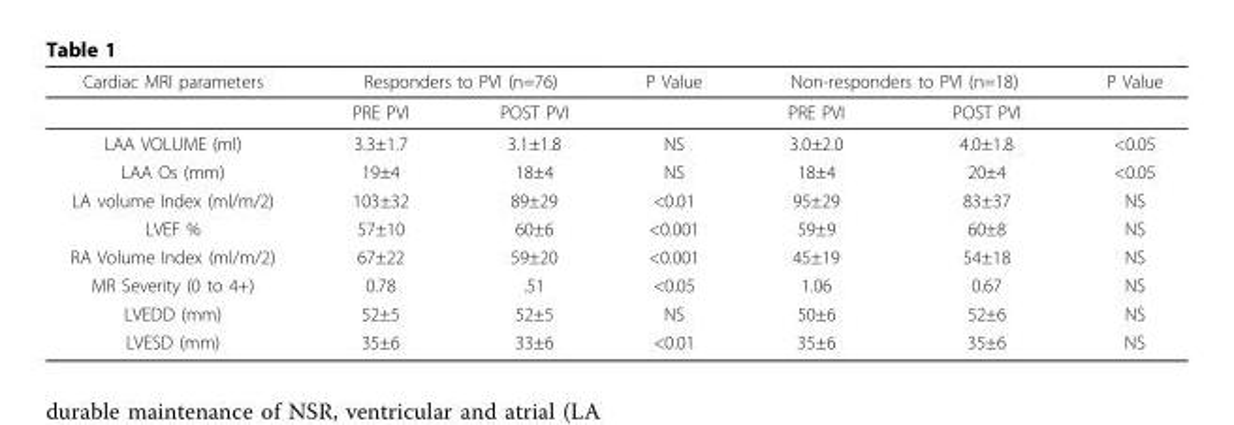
<table><thead><tr><td rowspan="2">Cardiac MRI parameters</td><td colspan="2">Responders to PVI (n=76)</td><td rowspan="2">P Value</td><td colspan="2">Non-responders to PVI (n=18)</td><td rowspan="2">P Value</td></tr><tr><td>PRE PVI</td><td>POST PVI</td><td>PRE PVI</td><td>POST PVI</td></tr></thead><tbody><tr><td>LAA VOLUME (ml)</td><td>3.3±1.7</td><td>3.1±1.8</td><td>NS</td><td>3.0±2.0</td><td>4.0±1.8</td><td>&lt;0.05</td></tr><tr><td>LAA Os (mm)</td><td>19±4</td><td>18±4</td><td>NS</td><td>18±4</td><td>20±4</td><td>&lt;0.05</td></tr><tr><td>LA volume Index (ml/m/2)</td><td>103±32</td><td>89±29</td><td>&lt;0.01</td><td>95±29</td><td>83±37</td><td>NS</td></tr><tr><td>LVEF %</td><td>57±10</td><td>60±6</td><td>&lt;0.001</td><td>59±9</td><td>60±8</td><td>NS</td></tr><tr><td>RA Volume Index (ml/m/2)</td><td>67±22</td><td>59±20</td><td>&lt;0.001</td><td>45±19</td><td>54±18</td><td>NS</td></tr><tr><td>MR Severity (0 to 4+)</td><td>0.78</td><td>.51</td><td>&lt;0.05</td><td>1.06</td><td>0.67</td><td>NS</td></tr><tr><td>LVEDD (mm)</td><td>52±5</td><td>52±5</td><td>NS</td><td>50±6</td><td>52±6</td><td>NS</td></tr><tr><td>LVESD (mm)</td><td>35±6</td><td>33±6</td><td>&lt;0.01</td><td>35±6</td><td>35±6</td><td>NS</td></tr></tbody></table>